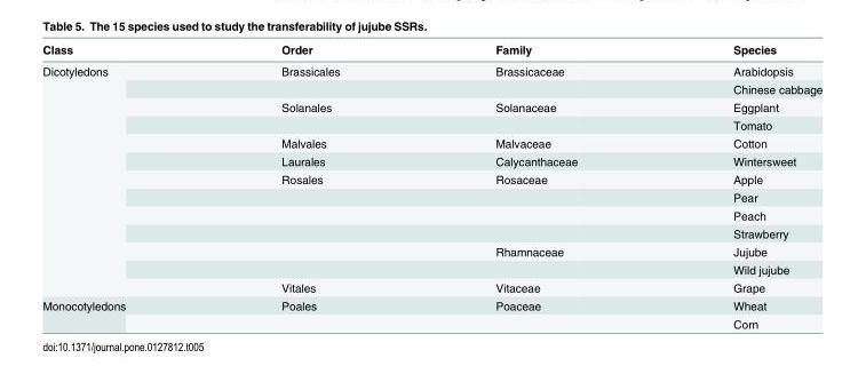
<table><thead><tr><td>Class</td><td>Order</td><td>Family</td><td>Species</td></tr></thead><tbody><tr><td rowspan="13">Dicotyledons</td><td>Brassicales</td><td>Brassicaceae</td><td>Arabidopsis</td></tr><tr><td></td><td></td><td>Chinese cabbage</td></tr><tr><td>Solanales</td><td>Solanaceae</td><td>Eggplant</td></tr><tr><td></td><td></td><td>Tomato</td></tr><tr><td>Malvales</td><td>Malvaceae</td><td>Cotton</td></tr><tr><td>Laurales</td><td>Calycanthaceae</td><td>Wintersweet</td></tr><tr><td>Rosales</td><td>Rosaceae</td><td>Apple</td></tr><tr><td></td><td></td><td>Pear</td></tr><tr><td></td><td></td><td>Peach</td></tr><tr><td></td><td></td><td>Strawberry</td></tr><tr><td></td><td>Rhamnaceae</td><td>Jujube</td></tr><tr><td></td><td></td><td>Wild jujube</td></tr><tr><td>Vitales</td><td>Vitaceae</td><td>Grape</td></tr><tr><td rowspan="2">Monocotyledons</td><td>Poales</td><td>Poaceae</td><td>Wheat</td></tr><tr><td></td><td></td><td>Corn</td></tr></tbody></table>